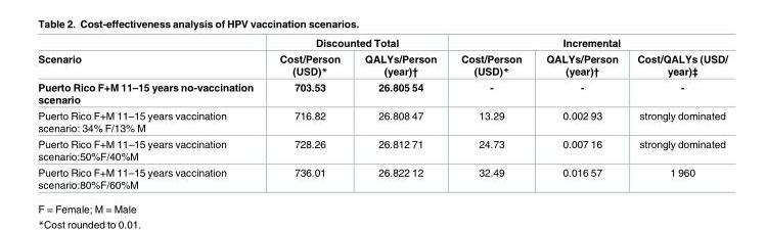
<table><thead><tr><td rowspan="2">Scenario</td><td colspan="2">Discounted Total</td><td colspan="3">Incremental</td></tr><tr><td>Cost/Person (USD)*</td><td>QALYs/Person (year)†</td><td>Cost/Person (USD)*</td><td>QALYs/Person (year)†</td><td>Cost/QALYs (USD/ year)‡</td></tr></thead><tbody><tr><td>Puerto Rico F+M 11–15 years no-vaccination scenario</td><td>703.53</td><td>26.805 54</td><td>-</td><td>-</td><td>-</td></tr><tr><td>Puerto Rico F+M 11–15 years vaccination scenario: 34% F/13% M</td><td>716.82</td><td>26.808 47</td><td>13.29</td><td>0.002 93</td><td>strongly dominated</td></tr><tr><td>Puerto Rico F+M 11–15 years vaccination scenario:50%F/40%M</td><td>728.26</td><td>26.812 71</td><td>24.73</td><td>0.007 16</td><td>strongly dominated</td></tr><tr><td>Puerto Rico F+M 11–15 years vaccination scenario:80%F/60%M</td><td>736.01</td><td>26.822 12</td><td>32.49</td><td>0.016 57</td><td>1 960</td></tr></tbody></table>